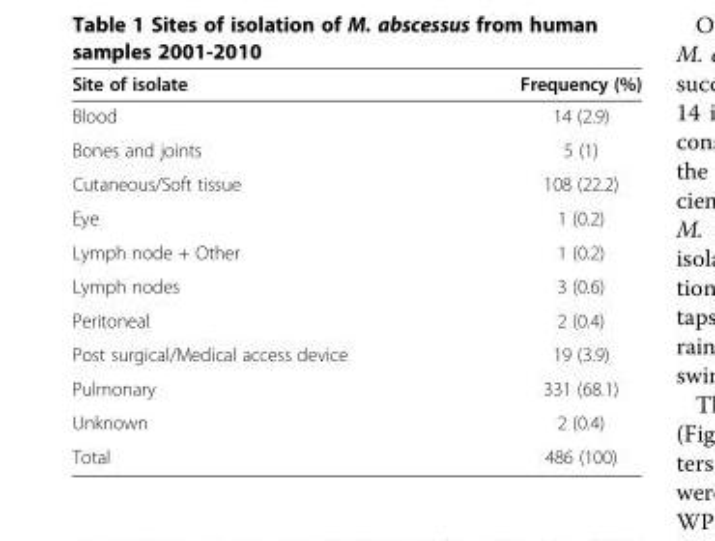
<table><thead><tr><td>Site of isolate</td><td>Frequency (%)</td></tr></thead><tbody><tr><td>Blood</td><td>14 (2.9)</td></tr><tr><td>Bones and joints</td><td>5 (1)</td></tr><tr><td>Cutaneous/Soft tissue</td><td>108 (22.2)</td></tr><tr><td>Eye</td><td>1 (0.2)</td></tr><tr><td>Lymph node + Other</td><td>1 (0.2)</td></tr><tr><td>Lymph nodes</td><td>3 (0.6)</td></tr><tr><td>Peritoneal</td><td>2 (0.4)</td></tr><tr><td>Post surgical/Medical access device</td><td>19 (3.9)</td></tr><tr><td>Pulmonary</td><td>331 (68.1)</td></tr><tr><td>Unknown</td><td>2 (0.4)</td></tr><tr><td>Total</td><td>486 (100)</td></tr></tbody></table>